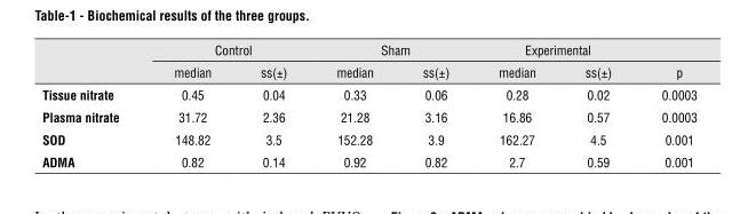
<table><thead><tr><td rowspan="2"></td><td colspan="2">Control</td><td colspan="2">Sham</td><td colspan="2">Experimental</td><td rowspan="2">p</td></tr><tr><td>median</td><td>ss(±)</td><td>median</td><td>ss(±)</td><td>median</td><td>ss(±)</td></tr></thead><tbody><tr><td>Tissue nitrate</td><td>0.45</td><td>0.04</td><td>0.33</td><td>0.06</td><td>0.28</td><td>0.02</td><td>0.0003</td></tr><tr><td>plasma nitrate</td><td>31.72</td><td>2.36</td><td>21.28</td><td>3.16</td><td>16.86</td><td>0.57</td><td>0.0003</td></tr><tr><td>sOD</td><td>148.82</td><td>3.5</td><td>152.28</td><td>3.9</td><td>162.27</td><td>4.5</td><td>0.001</td></tr><tr><td>ADMA</td><td>0.82</td><td>0.14</td><td>0.92</td><td>0.82</td><td>2.7</td><td>0.59</td><td>0.001</td></tr></tbody></table>